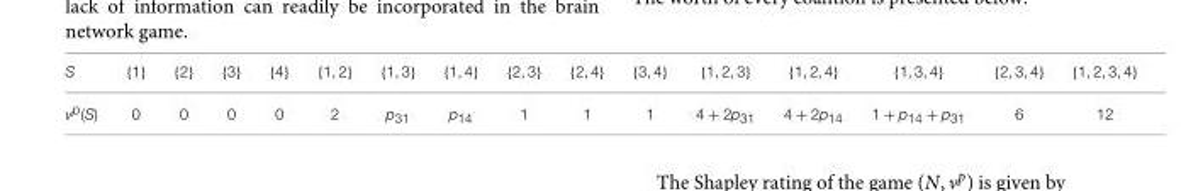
<table><thead><tr><td>S</td><td>{1}</td><td>{2}</td><td>{3}</td><td>{4}</td><td>{1, 2}</td><td>{1, 3}</td><td>{1, 4}</td><td>{2, 3}</td><td>{2, 4}</td><td>{3, 4}</td><td>{1, 2, 3}</td><td>{1, 2, 4}</td><td>{1, 3, 4}</td><td>{2, 3, 4}</td><td>{1, 2, 3, 4}</td></tr></thead><tbody><tr><td>v<sup>p</sup>(S)</td><td>0</td><td>0</td><td>0</td><td>0</td><td>2</td><td>p<sub>31</sub></td><td>p<sub>14</sub></td><td>1</td><td>1</td><td>1</td><td>4 + 2p<sub>31</sub></td><td>4 + 2p<sub>14</sub></td><td>1 + p<sub>14</sub> + p<sub>31</sub></td><td>6</td><td>12</td></tr></tbody></table>